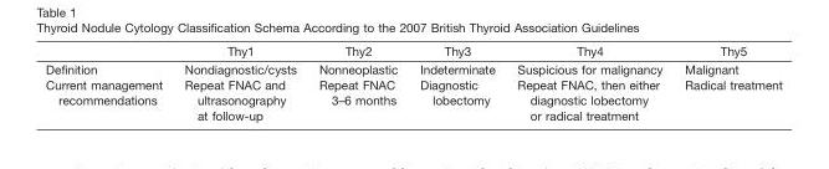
<table><thead><tr><td></td><td>Thy1</td><td>Thy2</td><td>Thy3</td><td>Thy4</td><td>Thy5</td></tr></thead><tbody><tr><td>Definition</td><td>Nondiagnostic/cysts</td><td>Nonneoplastic</td><td>Indeterminate</td><td>Suspicious for malignancy</td><td>Malignant</td></tr><tr><td>Current management recommendations</td><td>Repeat FNAC and ultrasonography at follow-up</td><td>Repeat FNAC 3–6 months</td><td>Diagnostic lobectomy</td><td>Repeat FNAC, then either diagnostic lobectomy or radical treatment</td><td>Radical treatment</td></tr></tbody></table>